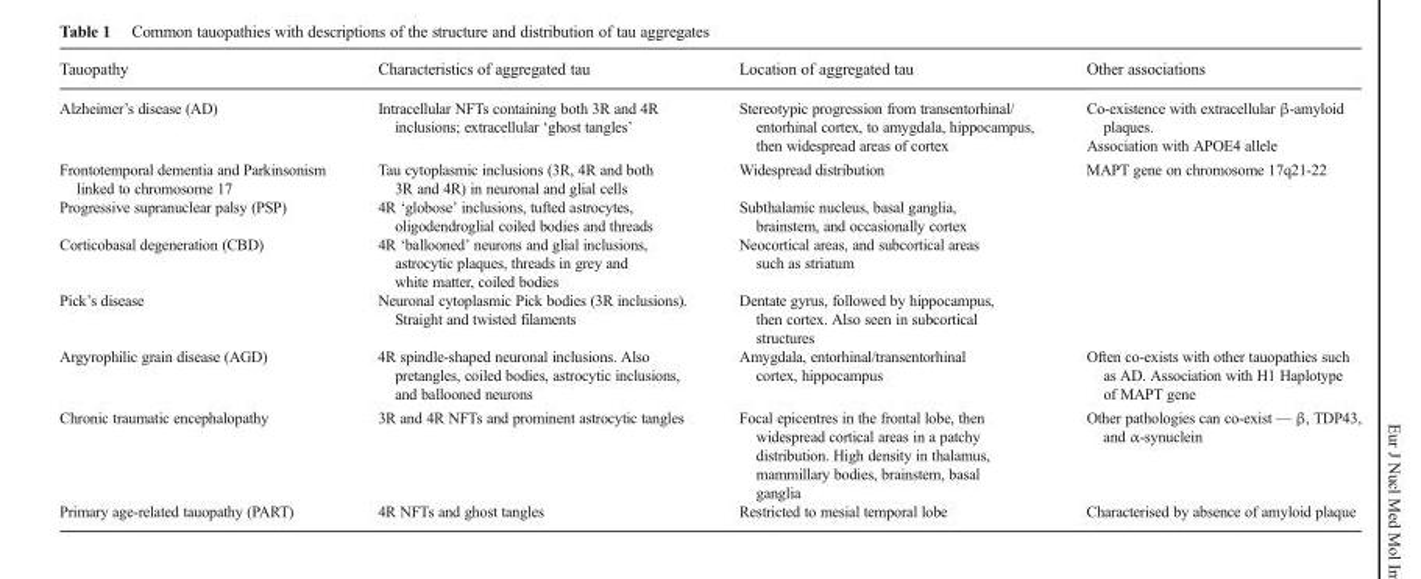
<table><thead><tr><td>Tauopathy</td><td>Characteristics of aggregated tau</td><td>Location of aggregated tau</td><td>Other associations</td></tr></thead><tbody><tr><td>Alzheimer’s disease (AD)</td><td>Intracellular NFTs containing both 3R and 4R inclusions; extracellular ‘ghost tangles’</td><td>Stereotypic progression from transentorhinal/ entorhinal cortex, to amygdala, hippocampus, then widespread areas of cortex</td><td>Co-existence with extracellular β-amyloid plaques. Association with APOE4 allele</td></tr><tr><td>Frontotemporal dementia and Parkinsonism linked to chromosome 17</td><td>Tau cytoplasmic inclusions (3R, 4R and both 3R and 4R) in neuronal and glial cells</td><td>Widespread distribution</td><td>MAPT gene on chromosome 17q21-22</td></tr><tr><td>Progressive supranuclear palsy (PSP)</td><td>4R ‘globose’ inclusions, tufted astrocytes, oligodendroglial coiled bodies and threads</td><td>Subthalamic nucleus, basal ganglia, brainstem, and occasionally cortex</td><td></td></tr><tr><td>Corticobasal degeneration (CBD)</td><td>4R ‘ballooned’ neurons and glial inclusions, astrocytic plaques, threads in grey and white matter, coiled bodies</td><td>Neocortical areas, and subcortical areas such as striatum</td><td></td></tr><tr><td>Pick’s disease</td><td>Neuronal cytoplasmic Pick bodies (3R inclusions). Straight and twisted filaments</td><td>Dentate gyrus, followed by hippocampus, then cortex. Also seen in subcortical structures</td><td></td></tr><tr><td>Argyrophilic grain disease (AGD)</td><td>4R spindle-shaped neuronal inclusions. Also pretangles, coiled bodies, astrocytic inclusions, and ballooned neurons</td><td>Amygdala, entorhinal/transentorhinal cortex, hippocampus</td><td>Often co-exists with other tauopathies such as AD. Association with H1 Haplotype of MAPT gene</td></tr><tr><td>Chronic traumatic encephalopathy</td><td>3R and 4R NFTs and prominent astrocytic tangles</td><td>Focal epicentres in the frontal lobe, then widespread cortical areas in a patchy distribution. High density in thalamus, mammillary bodies, brainstem, basal ganglia</td><td>Other pathologies can co-exist — β, TDP43, and α-synuclein</td></tr><tr><td>Primary age-related tauopathy (PART)</td><td>4R NFTs and ghost tangles</td><td>Restricted to mesial temporal lobe</td><td>Characterised by absence of amyloid plaque</td></tr></tbody></table>